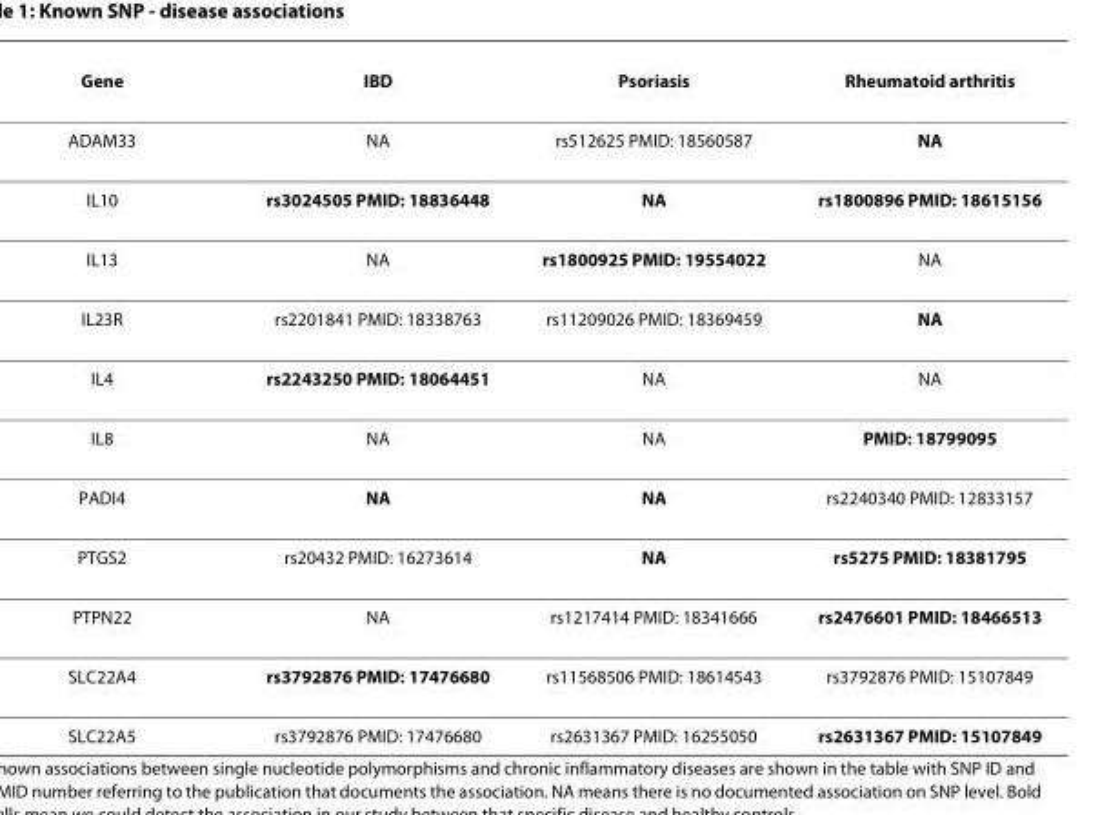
<table><tbody><tr><td>Gene</td><td>IBD</td><td>Psoriasis</td><td>Rheumatoid arthritis</td></tr><tr><td>ADAM33</td><td>NA</td><td>rs512625 PMID: 18560587</td><td>NA</td></tr><tr><td>IL10</td><td>rs3024505 PMID: 18836448</td><td>NA</td><td>rs1800896 PMID: 18615156</td></tr><tr><td>IL13</td><td>NA</td><td>rs1800925 PMID: 19554022</td><td>NA</td></tr><tr><td>IL23R</td><td>rs2201841 PMID: 18338763</td><td>rs11209026 PMID: 18369459</td><td>NA</td></tr><tr><td>IL4</td><td>rs2243250 PMID: 18064451</td><td>NA</td><td>NA</td></tr><tr><td>IL8</td><td>NA</td><td>NA</td><td>PMID: 18799095</td></tr><tr><td>PADI4</td><td>NA</td><td>NA</td><td>rs2240340 PMID: 12833157</td></tr><tr><td>PTGS2</td><td>rs20432 PMID: 16273614</td><td>NA</td><td>rs5275 PMID: 18381795</td></tr><tr><td>PTPN22</td><td>NA</td><td>rs1217414 PMID: 18341666</td><td>rs2476601 PMID: 18466513</td></tr><tr><td>SLC22A4</td><td>rs3792876 PMID: 17476680</td><td>rs11568506 PMID: 18614543</td><td>rs3792876 PMID: 15107849</td></tr><tr><td>SLC22A5</td><td>rs3792876 PMID: 17476680</td><td>rs2631367 PMID: 16255050</td><td>rs2631367 PMID: 15107849</td></tr></tbody></table>